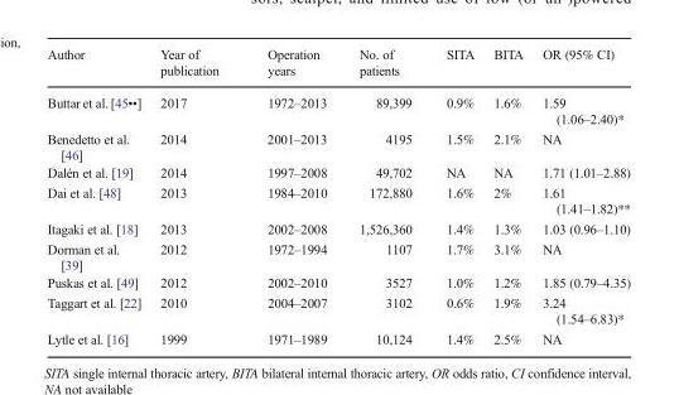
<table><thead><tr><td>Author</td><td>Year of publication</td><td>Operation years</td><td>No. of patients</td><td>SITA</td><td>BITA</td><td>OR (95% CI)</td></tr></thead><tbody><tr><td>Buttar et al. [45••]</td><td>2017</td><td>1972–2013</td><td>89,399</td><td>0.9%</td><td>1.6%</td><td>1.59 (1.06–2.40)*</td></tr><tr><td>Benedetto et al. [46]</td><td>2014</td><td>2001–2013</td><td>4195</td><td>1.5%</td><td>2.1%</td><td>NA</td></tr><tr><td>Dalén et al. [19]</td><td>2014</td><td>1997–2008</td><td>49,702</td><td>NA</td><td>NA</td><td>1.71 (1.01–2.88)</td></tr><tr><td>Dai et al. [48]</td><td>2013</td><td>1984–2010</td><td>172,880</td><td>1.6%</td><td>2%</td><td>1.61 (1.41–1.82)**</td></tr><tr><td>Itagaki et al. [18]</td><td>2013</td><td>2002–2008</td><td>1,526,360</td><td>1.4%</td><td>1.3%</td><td>1.03 (0.96–1.10)</td></tr><tr><td>Dorman et al. [39]</td><td>2012</td><td>1972–1994</td><td>1107</td><td>1.7%</td><td>3.1%</td><td>NA</td></tr><tr><td>Puskas et al. [49]</td><td>2012</td><td>2002–2010</td><td>3527</td><td>1.0%</td><td>1.2%</td><td>1.85 (0.79–4.35)</td></tr><tr><td>Taggart et al. [22]</td><td>2010</td><td>2004–2007</td><td>3102</td><td>0.6%</td><td>1.9%</td><td>3.24 (1.54–6.83)*</td></tr><tr><td>Lytle et al. [16]</td><td>1999</td><td>1971–1989</td><td>10,124</td><td>1.4%</td><td>2.5%</td><td>NA</td></tr></tbody></table>